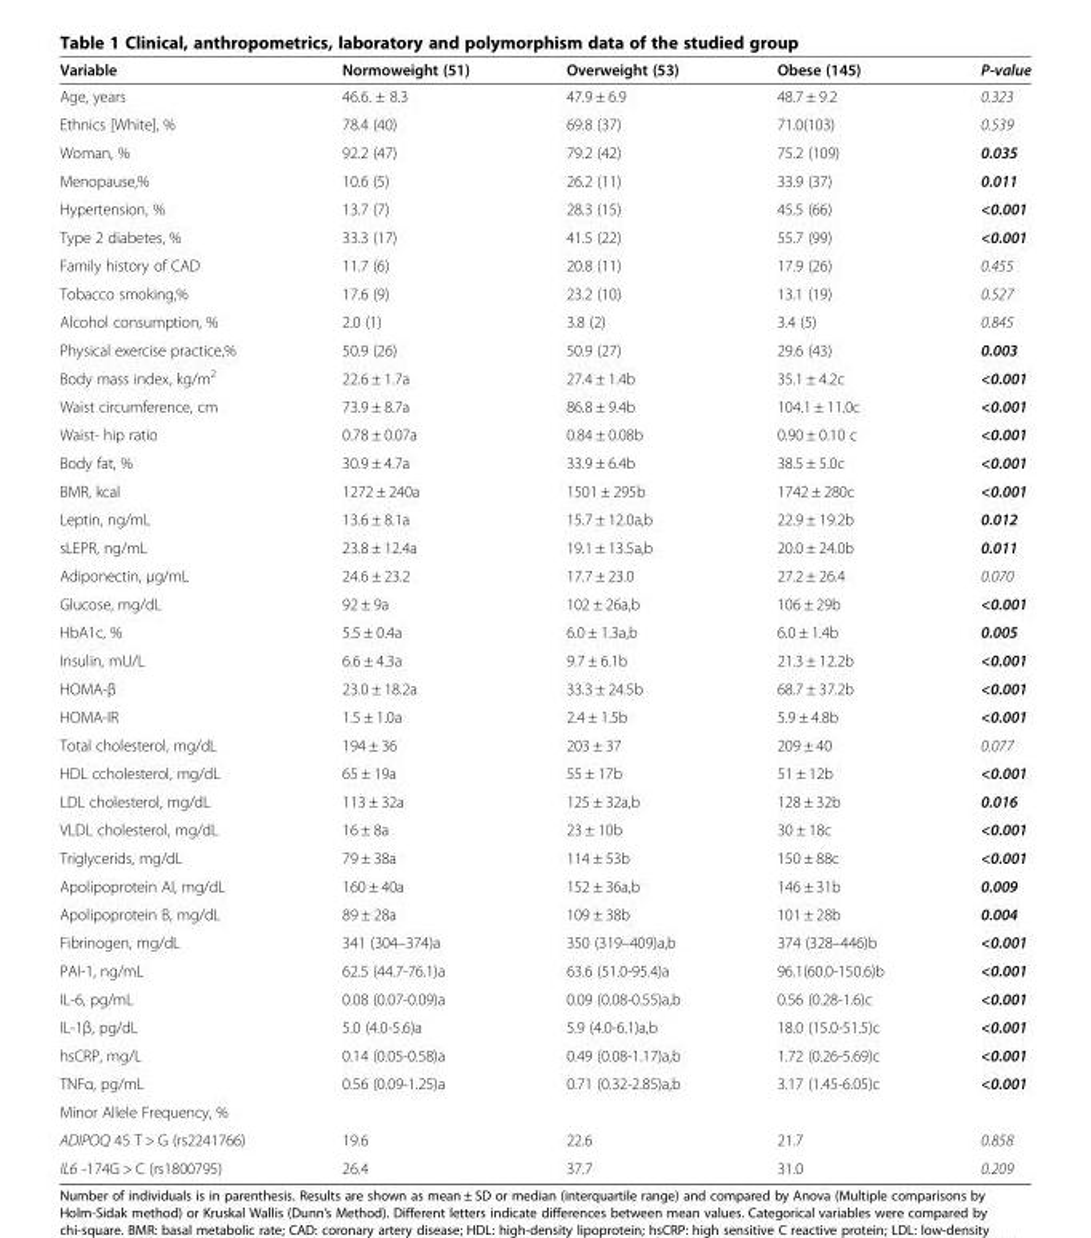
<table><thead><tr><td>Variable</td><td>Normoweight (51)</td><td>Overweight (53)</td><td>Obese (145)</td><td>P-value</td></tr></thead><tbody><tr><td>Age, years</td><td>46.6. ± 8.3</td><td>47.9 ± 6.9</td><td>48.7 ± 9.2</td><td>0.323</td></tr><tr><td>Ethnics [White], %</td><td>78.4 (40)</td><td>69.8 (37)</td><td>71.0(103)</td><td>0.539</td></tr><tr><td>Woman, %</td><td>92.2 (47)</td><td>79.2 (42)</td><td>75.2 (109)</td><td>0.035</td></tr><tr><td>Menopause,%</td><td>10.6 (5)</td><td>26.2 (11)</td><td>33.9 (37)</td><td>0.011</td></tr><tr><td>Hypertension, %</td><td>13.7 (7)</td><td>28.3 (15)</td><td>45.5 (66)</td><td>&lt;0.001</td></tr><tr><td>Type 2 diabetes, %</td><td>33.3 (17)</td><td>41.5 (22)</td><td>55.7 (99)</td><td>&lt;0.001</td></tr><tr><td>Family history of CAD</td><td>11.7 (6)</td><td>20.8 (11)</td><td>17.9 (26)</td><td>0.455</td></tr><tr><td>Tobacco smoking,%</td><td>17.6 (9)</td><td>23.2 (10)</td><td>13.1 (19)</td><td>0.527</td></tr><tr><td>Alcohol consumption, %</td><td>2.0 (1)</td><td>3.8 (2)</td><td>3.4 (5)</td><td>0.845</td></tr><tr><td>Physical exercise practice,%</td><td>50.9 (26)</td><td>50.9 (27)</td><td>29.6 (43)</td><td>0.003</td></tr><tr><td>Body mass index, kg/m<sup>2</sup></td><td>22.6 ± 1.7a</td><td>27.4 ± 1.4b</td><td>35.1 ± 4.2c</td><td>&lt;0.001</td></tr><tr><td>Waist circumference, cm</td><td>73.9 ± 8.7a</td><td>86.8 ± 9.4b</td><td>104.1 ± 11.0c</td><td>&lt;0.001</td></tr><tr><td>Waist- hip ratio</td><td>0.78 ± 0.07a</td><td>0.84 ± 0.08b</td><td>0.90 ± 0.10 c</td><td>&lt;0.001</td></tr><tr><td>Body fat, %</td><td>30.9 ± 4.7a</td><td>33.9 ± 6.4b</td><td>38.5 ± 5.0c</td><td>&lt;0.001</td></tr><tr><td>BMR, kcal</td><td>1272 ± 240a</td><td>1501 ± 295b</td><td>1742 ± 280c</td><td>&lt;0.001</td></tr><tr><td>Leptin, ng/mL</td><td>13.6 ± 8.1a</td><td>15.7 ± 12.0a,b</td><td>22.9 ± 19.2b</td><td>0.012</td></tr><tr><td>sLEPR, ng/mL</td><td>23.8 ± 12.4a</td><td>19.1 ± 13.5a,b</td><td>20.0 ± 24.0b</td><td>0.011</td></tr><tr><td>Adiponectin, μg/mL</td><td>24.6 ± 23.2</td><td>17.7 ± 23.0</td><td>27.2 ± 26.4</td><td>0.070</td></tr><tr><td>Glucose, mg/dL</td><td>92 ± 9a</td><td>102 ± 26a,b</td><td>106 ± 29b</td><td>&lt;0.001</td></tr><tr><td>HbA1c, %</td><td>5.5 ± 0.4a</td><td>6.0 ± 1.3a,b</td><td>6.0 ± 1.4b</td><td>0.005</td></tr><tr><td>Insulin, mU/L</td><td>6.6 ± 4.3a</td><td>9.7 ± 6.1b</td><td>21.3 ± 12.2b</td><td>&lt;0.001</td></tr><tr><td>HOMA-β</td><td>23.0 ± 18.2a</td><td>33.3 ± 24.5b</td><td>68.7 ± 37.2b</td><td>&lt;0.001</td></tr><tr><td>HOMA-IR</td><td>1.5 ± 1.0a</td><td>2.4 ± 1.5b</td><td>5.9 ± 4.8b</td><td>&lt;0.001</td></tr><tr><td>Total cholesterol, mg/dL</td><td>194 ± 36</td><td>203 ± 37</td><td>209 ± 40</td><td>0.077</td></tr><tr><td>HDL ccholesterol, mg/dL</td><td>65 ± 19a</td><td>55 ± 17b</td><td>51 ± 12b</td><td>&lt;0.001</td></tr><tr><td>LDL cholesterol, mg/dL</td><td>113 ± 32a</td><td>125 ± 32a,b</td><td>128 ± 32b</td><td>0.016</td></tr><tr><td>VLDL cholesterol, mg/dL</td><td>16 ± 8a</td><td>23 ± 10b</td><td>30 ± 18c</td><td>&lt;0.001</td></tr><tr><td>Triglycerids, mg/dL</td><td>79 ± 38a</td><td>114 ± 53b</td><td>150 ± 88c</td><td>&lt;0.001</td></tr><tr><td>Apolipoprotein AI, mg/dL</td><td>160 ± 40a</td><td>152 ± 36a,b</td><td>146 ± 31b</td><td>0.009</td></tr><tr><td>Apolipoprotein B, mg/dL</td><td>89 ± 28a</td><td>109 ± 38b</td><td>101 ± 28b</td><td>0.004</td></tr><tr><td>Fibrinogen, mg/dL</td><td>341 (304–374)a</td><td>350 (319–409)a,b</td><td>374 (328–446)b</td><td>&lt;0.001</td></tr><tr><td>PAI-1, ng/mL</td><td>62.5 (44.7-76.1)a</td><td>63.6 (51.0-95.4)a</td><td>96.1(60.0-150.6)b</td><td>&lt;0.001</td></tr><tr><td>IL-6, pg/mL</td><td>0.08 (0.07-0.09)a</td><td>0.09 (0.08-0.55)a,b</td><td>0.56 (0.28-1.6)c</td><td>&lt;0.001</td></tr><tr><td>IL-1β, pg/dL</td><td>5.0 (4.0-5.6)a</td><td>5.9 (4.0-6.1)a,b</td><td>18.0 (15.0-51.5)c</td><td>&lt;0.001</td></tr><tr><td>hsCRP, mg/L</td><td>0.14 (0.05-0.58)a</td><td>0.49 (0.08-1.17)a,b</td><td>1.72 (0.26-5.69)c</td><td>&lt;0.001</td></tr><tr><td>TNFα, pg/mL</td><td>0.56 (0.09-1.25)a</td><td>0.71 (0.32-2.85)a,b</td><td>3.17 (1.45-6.05)c</td><td>&lt;0.001</td></tr><tr><td colspan="5">Minor Allele Frequency, %</td></tr><tr><td>ADIPOQ 45 T &gt; G (rs2241766)</td><td>19.6</td><td>22.6</td><td>21.7</td><td>0.858</td></tr><tr><td>IL6 -174G &gt; C (rs1800795)</td><td>26.4</td><td>37.7</td><td>31.0</td><td>0.209</td></tr></tbody></table>